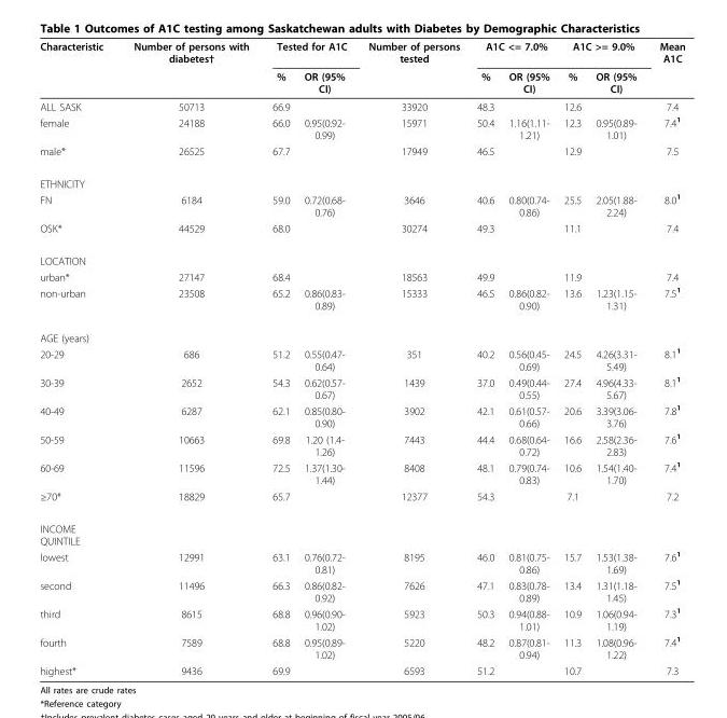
<table><thead><tr><td rowspan="2">Characteristic</td><td rowspan="2">Number of persons with diabetes†</td><td colspan="2">Tested for A1C</td><td rowspan="2">Number of persons tested</td><td colspan="2">A1C &lt;= 7.0%</td><td colspan="2">A1C &gt;= 9.0%</td><td rowspan="2">Mean A1C</td></tr><tr><td>%</td><td>OR (95% CI)</td><td>%</td><td>OR (95% CI)</td><td>%</td><td>OR (95% CI)</td></tr></thead><tbody><tr><td>ALL SASK</td><td>50713</td><td>66.9</td><td></td><td>33920</td><td>48.3</td><td></td><td>12.6</td><td></td><td>7.4</td></tr><tr><td>female</td><td>24188</td><td>66.0</td><td>0.95(0.92- 0.99)</td><td>15971</td><td>50.4</td><td>1.16(1.11- 1.21)</td><td>12.3</td><td>0.95(0.89- 1.01)</td><td>7.4<sup>1</sup></td></tr><tr><td>male*</td><td>26525</td><td>67.7</td><td></td><td>17949</td><td>46.5</td><td></td><td>12.9</td><td></td><td>7.5</td></tr><tr><td colspan="10">ETHNICITY</td></tr><tr><td>FN</td><td>6184</td><td>59.0</td><td>0.72(0.68- 0.76)</td><td>3646</td><td>40.6</td><td>0.80(0.74- 0.86)</td><td>25.5</td><td>2.05(1.88- 2.24)</td><td>8.0<sup>1</sup></td></tr><tr><td>OSK*</td><td>44529</td><td>68.0</td><td></td><td>30274</td><td>49.3</td><td></td><td>11.1</td><td></td><td>7.4</td></tr><tr><td colspan="10">LOCATION</td></tr><tr><td>urban*</td><td>27147</td><td>68.4</td><td></td><td>18563</td><td>49.9</td><td></td><td>11.9</td><td></td><td>7.4</td></tr><tr><td>non-urban</td><td>23508</td><td>65.2</td><td>0.86(0.83- 0.89)</td><td>15333</td><td>46.5</td><td>0.86(0.82- 0.90)</td><td>13.6</td><td>1.23(1.15- 1.31)</td><td>7.5<sup>1</sup></td></tr><tr><td colspan="10">AGE (years)</td></tr><tr><td>20-29</td><td>686</td><td>51.2</td><td>0.55(0.47- 0.64)</td><td>351</td><td>40.2</td><td>0.56(0.45- 0.69)</td><td>24.5</td><td>4.26(3.31- 5.49)</td><td>8.1<sup>1</sup></td></tr><tr><td>30-39</td><td>2652</td><td>54.3</td><td>0.62(0.57- 0.67)</td><td>1439</td><td>37.0</td><td>0.49(0.44- 0.55)</td><td>27.4</td><td>4.96(4.33- 5.67)</td><td>8.1<sup>1</sup></td></tr><tr><td>40-49</td><td>6287</td><td>62.1</td><td>0.85(0.80- 0.90)</td><td>3902</td><td>42.1</td><td>0.61(0.57- 0.66)</td><td>20.6</td><td>3.39(3.06- 3.76)</td><td>7.8<sup>1</sup></td></tr><tr><td>50-59</td><td>10663</td><td>69.8</td><td>1.20 (1.4- 1.26)</td><td>7443</td><td>44.4</td><td>0.68(0.64- 0.72)</td><td>16.6</td><td>2.58(2.36- 2.83)</td><td>7.6<sup>1</sup></td></tr><tr><td>60-69</td><td>11596</td><td>72.5</td><td>1.37(1.30- 1.44)</td><td>8408</td><td>48.1</td><td>0.79(0.74- 0.83)</td><td>10.6</td><td>1.54(1.40- 1.70)</td><td>7.4<sup>1</sup></td></tr><tr><td>≥70*</td><td>18829</td><td>65.7</td><td></td><td>12377</td><td>54.3</td><td></td><td>7.1</td><td></td><td>7.2</td></tr><tr><td colspan="10">INCOME QUINTILE</td></tr><tr><td>lowest</td><td>12991</td><td>63.1</td><td>0.76(0.72- 0.81)</td><td>8195</td><td>46.0</td><td>0.81(0.75- 0.86)</td><td>15.7</td><td>1.53(1.38- 1.69)</td><td>7.6<sup>1</sup></td></tr><tr><td>second</td><td>11496</td><td>66.3</td><td>0.86(0.82- 0.92)</td><td>7626</td><td>47.1</td><td>0.83(0.78- 0.89)</td><td>13.4</td><td>1.31(1.18- 1.45)</td><td>7.5<sup>1</sup></td></tr><tr><td>third</td><td>8615</td><td>68.8</td><td>0.96(0.90- 1.02)</td><td>5923</td><td>50.3</td><td>0.94(0.88- 1.01)</td><td>10.9</td><td>1.06(0.94- 1.19)</td><td>7.3<sup>1</sup></td></tr><tr><td>fourth</td><td>7589</td><td>68.8</td><td>0.95(0.89- 1.02)</td><td>5220</td><td>48.2</td><td>0.87(0.81- 0.94)</td><td>11.3</td><td>1.08(0.96- 1.22)</td><td>7.4<sup>1</sup></td></tr><tr><td>highest*</td><td>9436</td><td>69.9</td><td></td><td>6593</td><td>51.2</td><td></td><td>10.7</td><td></td><td>7.3</td></tr></tbody></table>